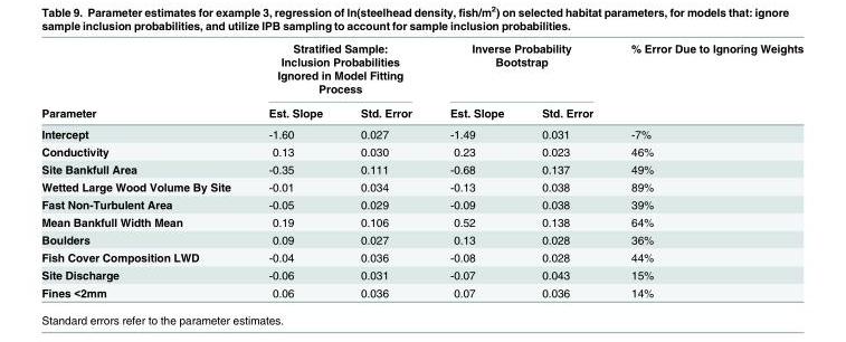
<table><thead><tr><td rowspan="2">Parameter</td><td colspan="2">Stratified Sample: Inclusion Probabilities Ignored in Model Fitting Process</td><td colspan="2">Inverse Probability Bootstrap</td><td rowspan="2">% Error Due to Ignoring Weights</td></tr><tr><td>Est. Slope</td><td>Std. Error</td><td>Est. Slope</td><td>Std. Error</td></tr></thead><tbody><tr><td>Intercept</td><td>-1.60</td><td>0.027</td><td>-1.49</td><td>0.031</td><td>-7%</td></tr><tr><td>Conductivity</td><td>0.13</td><td>0.030</td><td>0.23</td><td>0.023</td><td>46%</td></tr><tr><td>Site Bankfull Area</td><td>-0.35</td><td>0.111</td><td>-0.68</td><td>0.137</td><td>49%</td></tr><tr><td>Wetted Large Wood Volume By Site</td><td>-0.01</td><td>0.034</td><td>-0.13</td><td>0.038</td><td>89%</td></tr><tr><td>Fast Non-Turbulent Area</td><td>-0.05</td><td>0.029</td><td>-0.09</td><td>0.038</td><td>39%</td></tr><tr><td>Mean Bankfull Width Mean</td><td>0.19</td><td>0.106</td><td>0.52</td><td>0.138</td><td>64%</td></tr><tr><td>Boulders</td><td>0.09</td><td>0.027</td><td>0.13</td><td>0.028</td><td>36%</td></tr><tr><td>Fish Cover Composition LWD</td><td>-0.04</td><td>0.036</td><td>-0.08</td><td>0.028</td><td>44%</td></tr><tr><td>Site Discharge</td><td>-0.06</td><td>0.031</td><td>-0.07</td><td>0.043</td><td>15%</td></tr><tr><td>Fines &lt;2mm</td><td>0.06</td><td>0.036</td><td>0.07</td><td>0.036</td><td>14%</td></tr></tbody></table>